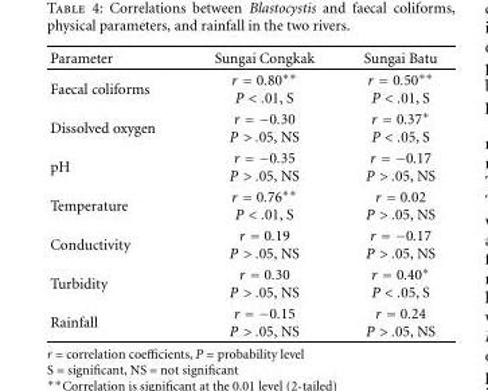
<table><thead><tr><td>Parameter</td><td>Sungai Congkak</td><td>Sungai Batu</td></tr></thead><tbody><tr><td>Faecal coliforms</td><td>r = 0.80∗∗ P &lt; .01, S</td><td>r = 0.50∗∗ P &lt; .01, S</td></tr><tr><td>Dissolved oxygen</td><td>r = −0.30 P &gt; .05, NS</td><td>r = 0.37∗ P &lt; .05, S</td></tr><tr><td>pH</td><td>r = −0.35 P &gt; .05, NS</td><td>r = −0.17 P &gt; .05, NS</td></tr><tr><td>Temperature</td><td>r = 0.76∗∗ P &lt; .01, S</td><td>r = 0.02 P &gt; .05, NS</td></tr><tr><td>Conductivity</td><td>r = 0.19 P &gt; .05, NS</td><td>r = −0.17 P &gt; .05, NS</td></tr><tr><td>Turbidity</td><td>r = 0.30 P &gt; .05, NS</td><td>r = 0.40∗ P &lt; .05, S</td></tr><tr><td>Rainfall</td><td>r = −0.15 P &gt; .05, NS</td><td>r = 0.24 P &gt; .05, NS</td></tr></tbody></table>